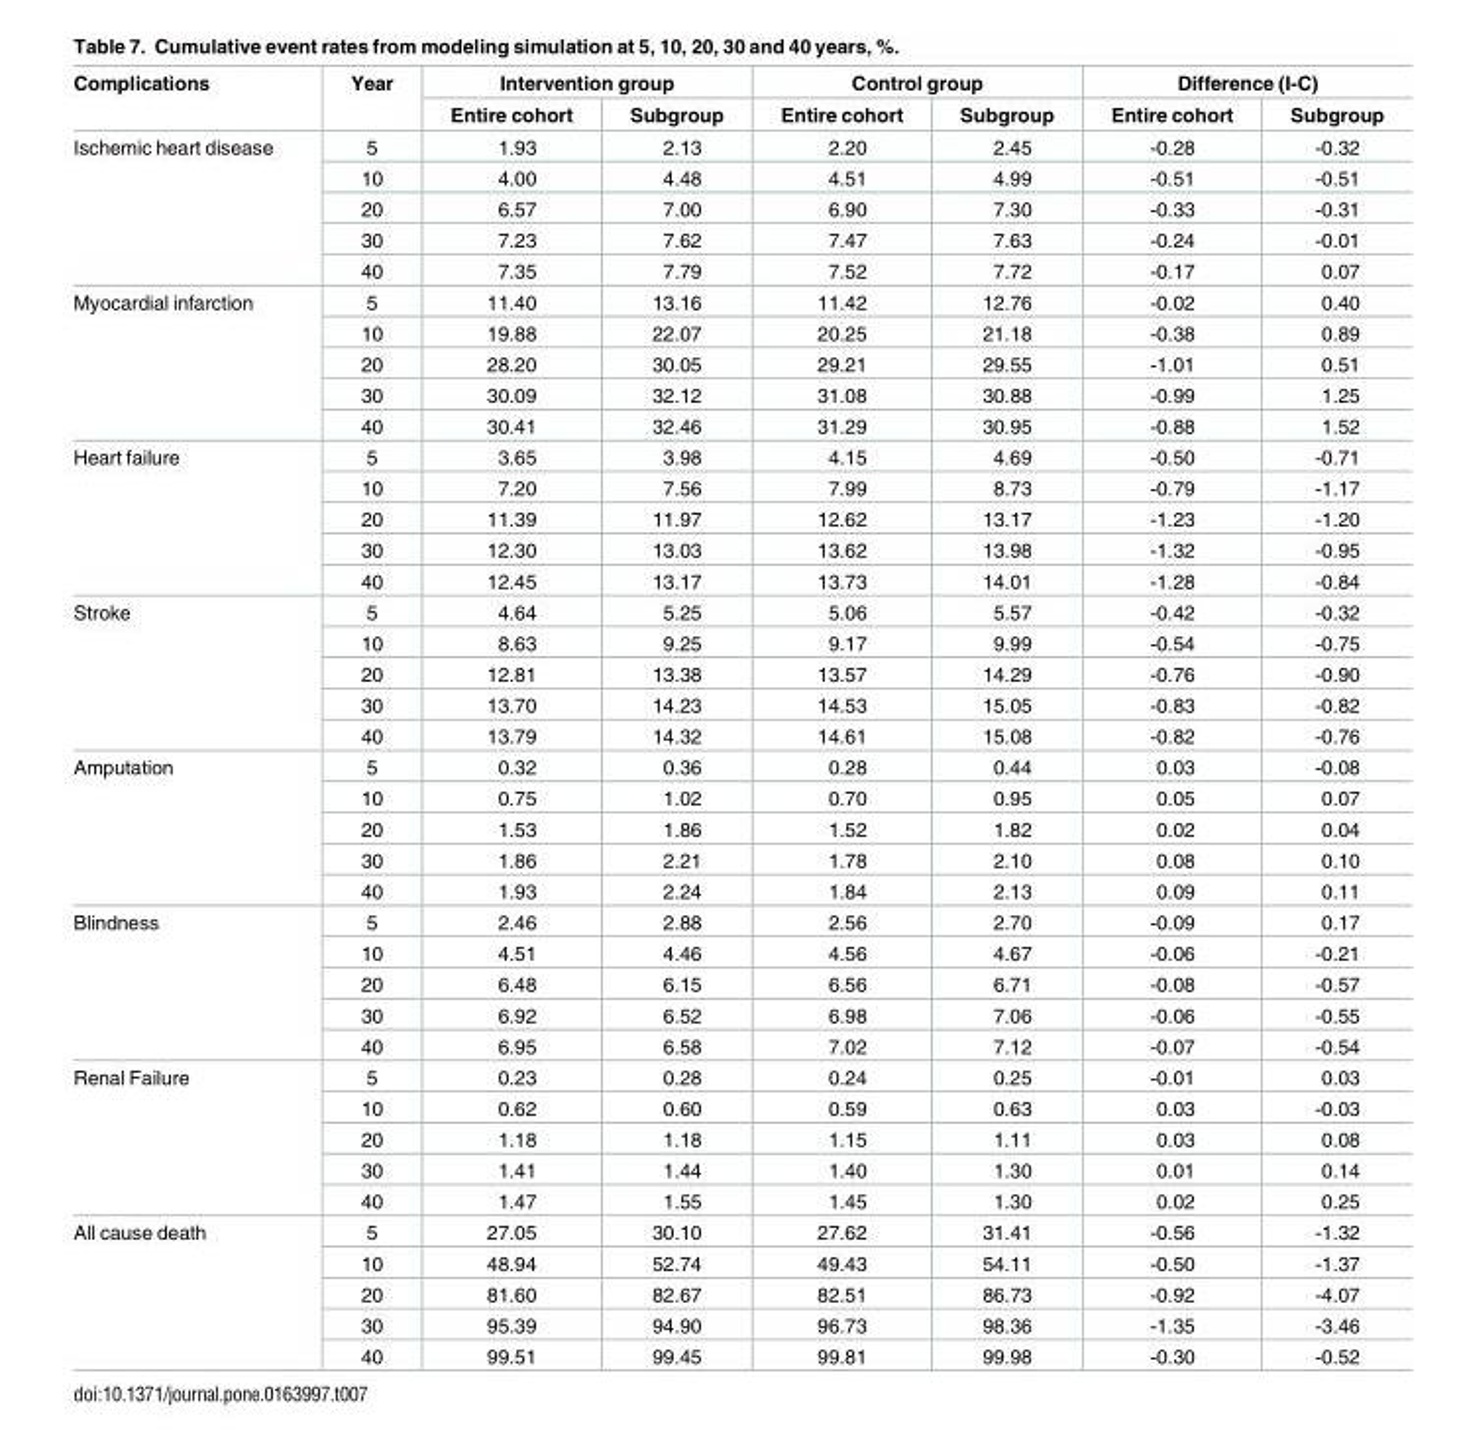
<table><thead><tr><td rowspan="2">Complications</td><td rowspan="2">Year</td><td colspan="2">Intervention group</td><td colspan="2">Control group</td><td colspan="2">Difference (I-C)</td></tr><tr><td>Entire cohort</td><td>Subgroup</td><td>Entire cohort</td><td>Subgroup</td><td>Entire cohort</td><td>Subgroup</td></tr></thead><tbody><tr><td rowspan="5">Ischemic heart disease</td><td>5</td><td>1.93</td><td>2.13</td><td>2.20</td><td>2.45</td><td>-0.28</td><td>-0.32</td></tr><tr><td>10</td><td>4.00</td><td>4.48</td><td>4.51</td><td>4.99</td><td>-0.51</td><td>-0.51</td></tr><tr><td>20</td><td>6.57</td><td>7.00</td><td>6.90</td><td>7.30</td><td>-0.33</td><td>-0.31</td></tr><tr><td>30</td><td>7.23</td><td>7.62</td><td>7.47</td><td>7.63</td><td>-0.24</td><td>-0.01</td></tr><tr><td>40</td><td>7.35</td><td>7.79</td><td>7.52</td><td>7.72</td><td>-0.17</td><td>0.07</td></tr><tr><td rowspan="5">Myocardial infarction</td><td>5</td><td>11.40</td><td>13.16</td><td>11.42</td><td>12.76</td><td>-0.02</td><td>0.40</td></tr><tr><td>10</td><td>19.88</td><td>22.07</td><td>20.25</td><td>21.18</td><td>-0.38</td><td>0.89</td></tr><tr><td>20</td><td>28.20</td><td>30.05</td><td>29.21</td><td>29.55</td><td>-1.01</td><td>0.51</td></tr><tr><td>30</td><td>30.09</td><td>32.12</td><td>31.08</td><td>30.88</td><td>-0.99</td><td>1.25</td></tr><tr><td>40</td><td>30.41</td><td>32.46</td><td>31.29</td><td>30.95</td><td>-0.88</td><td>1.52</td></tr><tr><td rowspan="5">Heart failure</td><td>5</td><td>3.65</td><td>3.98</td><td>4.15</td><td>4.69</td><td>-0.50</td><td>-0.71</td></tr><tr><td>10</td><td>7.20</td><td>7.56</td><td>7.99</td><td>8.73</td><td>-0.79</td><td>-1.17</td></tr><tr><td>20</td><td>11.39</td><td>11.97</td><td>12.62</td><td>13.17</td><td>-1.23</td><td>-1.20</td></tr><tr><td>30</td><td>12.30</td><td>13.03</td><td>13.62</td><td>13.98</td><td>-1.32</td><td>-0.95</td></tr><tr><td>40</td><td>12.45</td><td>13.17</td><td>13.73</td><td>14.01</td><td>-1.28</td><td>-0.84</td></tr><tr><td rowspan="5">Stroke</td><td>5</td><td>4.64</td><td>5.25</td><td>5.06</td><td>5.57</td><td>-0.42</td><td>-0.32</td></tr><tr><td>10</td><td>8.63</td><td>9.25</td><td>9.17</td><td>9.99</td><td>-0.54</td><td>-0.75</td></tr><tr><td>20</td><td>12.81</td><td>13.38</td><td>13.57</td><td>14.29</td><td>-0.76</td><td>-0.90</td></tr><tr><td>30</td><td>13.70</td><td>14.23</td><td>14.53</td><td>15.05</td><td>-0.83</td><td>-0.82</td></tr><tr><td>40</td><td>13.79</td><td>14.32</td><td>14.61</td><td>15.08</td><td>-0.82</td><td>-0.76</td></tr><tr><td rowspan="5">Amputation</td><td>5</td><td>0.32</td><td>0.36</td><td>0.28</td><td>0.44</td><td>0.03</td><td>-0.08</td></tr><tr><td>10</td><td>0.75</td><td>1.02</td><td>0.70</td><td>0.95</td><td>0.05</td><td>0.07</td></tr><tr><td>20</td><td>1.53</td><td>1.86</td><td>1.52</td><td>1.82</td><td>0.02</td><td>0.04</td></tr><tr><td>30</td><td>1.86</td><td>2.21</td><td>1.78</td><td>2.10</td><td>0.08</td><td>0.10</td></tr><tr><td>40</td><td>1.93</td><td>2.24</td><td>1.84</td><td>2.13</td><td>0.09</td><td>0.11</td></tr><tr><td rowspan="5">Blindness</td><td>5</td><td>2.46</td><td>2.88</td><td>2.56</td><td>2.70</td><td>-0.09</td><td>0.17</td></tr><tr><td>10</td><td>4.51</td><td>4.46</td><td>4.56</td><td>4.67</td><td>-0.06</td><td>-0.21</td></tr><tr><td>20</td><td>6.48</td><td>6.15</td><td>6.56</td><td>6.71</td><td>-0.08</td><td>-0.57</td></tr><tr><td>30</td><td>6.92</td><td>6.52</td><td>6.98</td><td>7.06</td><td>-0.06</td><td>-0.55</td></tr><tr><td>40</td><td>6.95</td><td>6.58</td><td>7.02</td><td>7.12</td><td>-0.07</td><td>-0.54</td></tr><tr><td rowspan="5">Renal Failure</td><td>5</td><td>0.23</td><td>0.28</td><td>0.24</td><td>0.25</td><td>-0.01</td><td>0.03</td></tr><tr><td>10</td><td>0.62</td><td>0.60</td><td>0.59</td><td>0.63</td><td>0.03</td><td>-0.03</td></tr><tr><td>20</td><td>1.18</td><td>1.18</td><td>1.15</td><td>1.11</td><td>0.03</td><td>0.08</td></tr><tr><td>30</td><td>1.41</td><td>1.44</td><td>1.40</td><td>1.30</td><td>0.01</td><td>0.14</td></tr><tr><td>40</td><td>1.47</td><td>1.55</td><td>1.45</td><td>1.30</td><td>0.02</td><td>0.25</td></tr><tr><td rowspan="5">All cause death</td><td>5</td><td>27.05</td><td>30.10</td><td>27.62</td><td>31.41</td><td>-0.56</td><td>-1.32</td></tr><tr><td>10</td><td>48.94</td><td>52.74</td><td>49.43</td><td>54.11</td><td>-0.50</td><td>-1.37</td></tr><tr><td>20</td><td>81.60</td><td>82.67</td><td>82.51</td><td>86.73</td><td>-0.92</td><td>-4.07</td></tr><tr><td>30</td><td>95.39</td><td>94.90</td><td>96.73</td><td>98.36</td><td>-1.35</td><td>-3.46</td></tr><tr><td>40</td><td>99.51</td><td>99.45</td><td>99.81</td><td>99.98</td><td>-0.30</td><td>-0.52</td></tr></tbody></table>